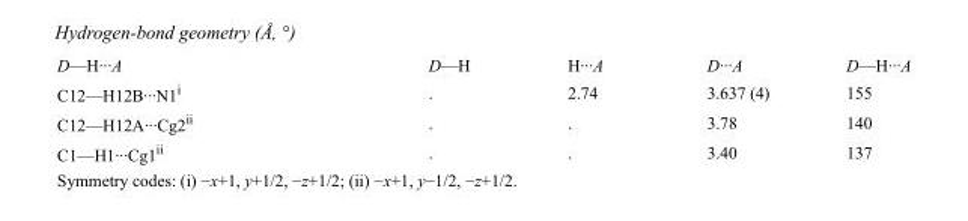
<table><tbody><tr><td>D—H···A</td><td>D—H</td><td>H···A</td><td>D···A</td><td>D—H···A</td></tr><tr><td>C12—H12B···N1<sup>i</sup></td><td>.</td><td>2.74</td><td>3.637 (4)</td><td>155</td></tr><tr><td>C12—H12A···Cg2<sup>ii</sup></td><td>.</td><td>.</td><td>3.78</td><td>140</td></tr><tr><td>C1—H1···Cg1<sup>ii</sup></td><td>.</td><td>.</td><td>3.40</td><td>137</td></tr></tbody></table>